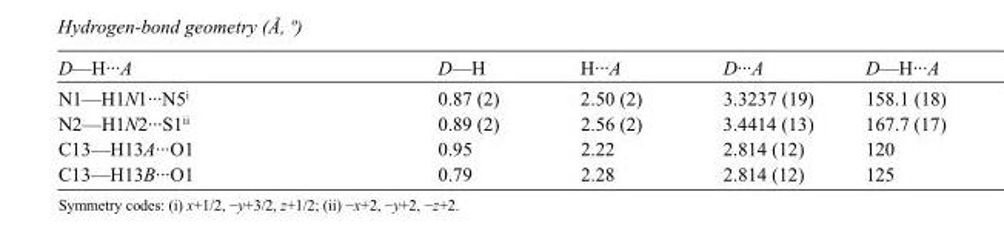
<table><tbody><tr><td>D—H···A</td><td>D—H</td><td>H···A</td><td>D···A</td><td>D—H···A</td></tr><tr><td>N1—H1N1···N5<sup>i</sup></td><td>0.87 (2)</td><td>2.50 (2)</td><td>3.3237 (19)</td><td>158.1 (18)</td></tr><tr><td>N2—H1N2···S1<sup>ii</sup></td><td>0.89 (2)</td><td>2.56 (2)</td><td>3.4414 (13)</td><td>167.7 (17)</td></tr><tr><td>C13—H13A···O1</td><td>0.95</td><td>2.22</td><td>2.814 (12)</td><td>120</td></tr><tr><td>C13—H13B···O1</td><td>0.79</td><td>2.28</td><td>2.814 (12)</td><td>125</td></tr></tbody></table>